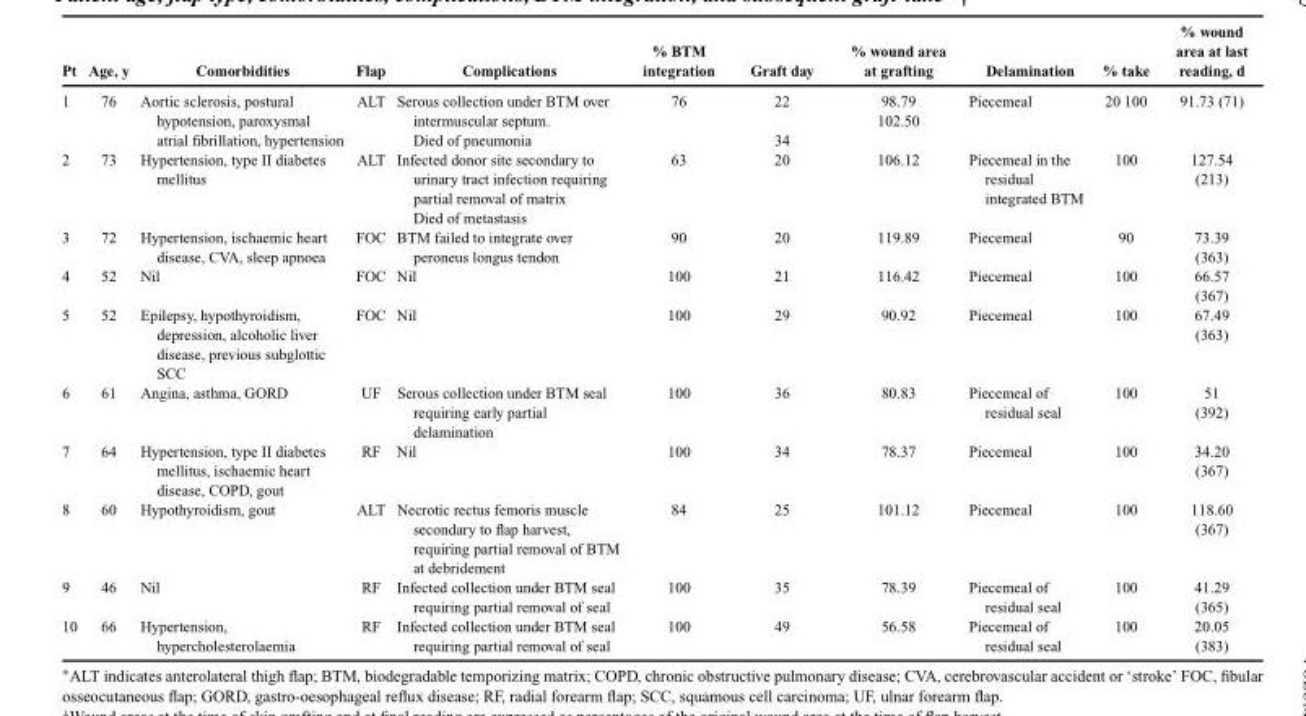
<table><thead><tr><td>Pt</td><td>Age, y</td><td>Comorbidities</td><td>Flap</td><td>Complications</td><td>integration</td><td>Graft day</td><td>at grafting</td><td>Delamination</td><td>% take</td><td>reading, d</td></tr></thead><tbody><tr><td>1</td><td>76</td><td>Aortic sclerosis, postural hypotension, paroxysmal atrial fibrillation, hypertension</td><td>ALT</td><td>Serous collection under BTM over intermuscular septum. Died of pneumonia</td><td>76</td><td>22 34</td><td>98.79 102.50</td><td>Piecemeal</td><td>20 100</td><td>91.73 (71)</td></tr><tr><td>2</td><td>73</td><td>Hypertension, type II diabetes mellitus</td><td>ALT</td><td>Infected donor site secondary to urinary tract infection requiring partial removal of matrix Died of metastasis</td><td>63</td><td>20</td><td>106.12</td><td>Piecemeal in the residual integrated BTM</td><td>100</td><td>127.54 (213)</td></tr><tr><td>3</td><td>72</td><td>Hypertension, ischaemic heart disease, CVA, sleep apnoea</td><td>FOC</td><td>BTM failed to integrate over peroneus longus tendon</td><td>90</td><td>20</td><td>119.89</td><td>Piecemeal</td><td>90</td><td>73.39 (363)</td></tr><tr><td>4</td><td>52</td><td>Nil</td><td>FOC</td><td>Nil</td><td>100</td><td>21</td><td>116.42</td><td>Piecemeal</td><td>100</td><td>66.57 (367)</td></tr><tr><td>5</td><td>52</td><td>Epilepsy, hypothyroidism, depression, alcoholic liver disease, previous subglottic SCC</td><td>FOC</td><td>Nil</td><td>100</td><td>29</td><td>90.92</td><td>Piecemeal</td><td>100</td><td>67.49 (363)</td></tr><tr><td>6</td><td>61</td><td>Angina, asthma, GORD</td><td>UF</td><td>Serous collection under BTM seal requiring early partial delamination</td><td>100</td><td>36</td><td>80.83</td><td>Piecemeal of residual seal</td><td>100</td><td>51 (392)</td></tr><tr><td>7</td><td>64</td><td>Hypertension, type II diabetes mellitus, ischaemic heart disease, COPD, gout</td><td>RF</td><td>Nil</td><td>100</td><td>34</td><td>78.37</td><td>Piecemeal</td><td>100</td><td>34.20 (367)</td></tr><tr><td>8</td><td>60</td><td>Hypothyroidism, gout</td><td>ALT</td><td>Necrotic rectus femoris muscle secondary to flap harvest, requiring partial removal of BTM at debridement</td><td>84</td><td>25</td><td>101.12</td><td>Piecemeal</td><td>100</td><td>118.60 (367)</td></tr><tr><td>9</td><td>46</td><td>Nil</td><td>RF</td><td>Infected collection under BTM seal requiring partial removal of seal</td><td>100</td><td>35</td><td>78.39</td><td>Piecemeal of residual seal</td><td>100</td><td>41.29 (365)</td></tr><tr><td>10</td><td>66</td><td>Hypertension, hypercholesterolaemia</td><td>RF</td><td>Infected collection under BTM seal requiring partial removal of seal</td><td>100</td><td>49</td><td>56.58</td><td>Piecemeal of residual seal</td><td>100</td><td>20.05 (383)</td></tr></tbody></table>